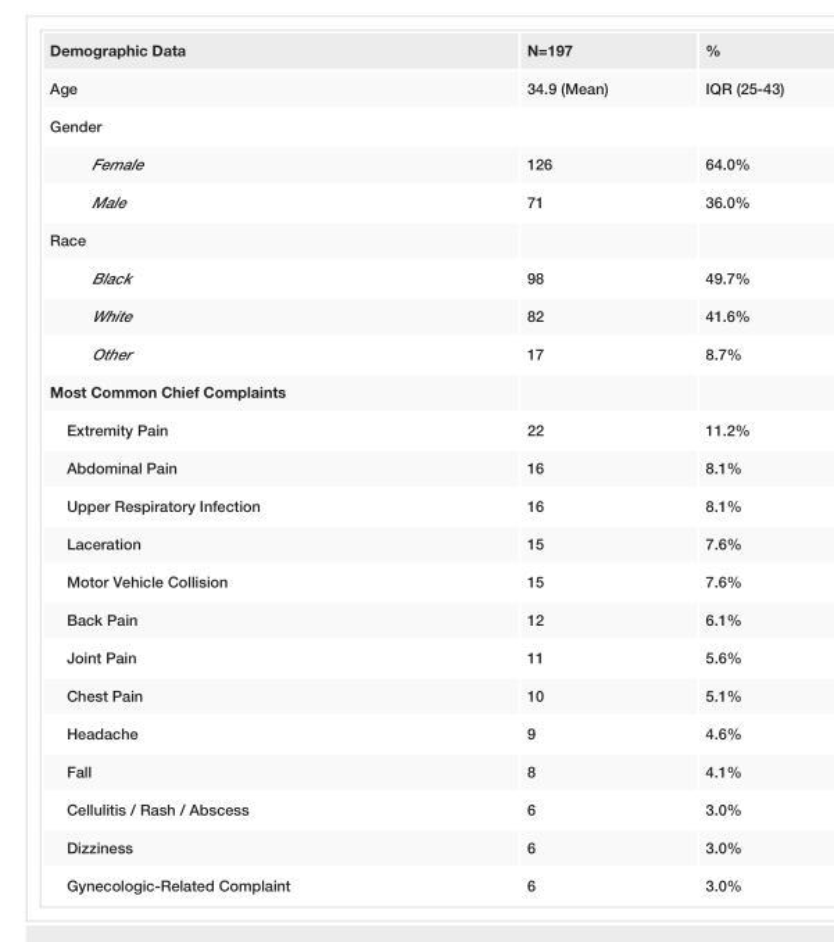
<table><tbody><tr><td>Demographic Data</td><td>N=197</td><td>%</td></tr><tr><td>Age</td><td>34.9 (Mean)</td><td>IQR (25-43)</td></tr><tr><td colspan="3">Gender</td></tr><tr><td>Female</td><td>126</td><td>64.0%</td></tr><tr><td>Male</td><td>71</td><td>36.0%</td></tr><tr><td colspan="3">Race</td></tr><tr><td>Black</td><td>98</td><td>49.7%</td></tr><tr><td>White</td><td>82</td><td>41.6%</td></tr><tr><td>Other</td><td>17</td><td>8.7%</td></tr><tr><td colspan="3">Most Common Chief Complaints</td></tr><tr><td>Extremity Pain</td><td>22</td><td>11.2%</td></tr><tr><td>Abdominal Pain</td><td>16</td><td>8.1%</td></tr><tr><td>Upper Respiratory Infection</td><td>16</td><td>8.1%</td></tr><tr><td>Laceration</td><td>15</td><td>7.6%</td></tr><tr><td>Motor Vehicle Collision</td><td>15</td><td>7.6%</td></tr><tr><td>Back Pain</td><td>12</td><td>6.1%</td></tr><tr><td>Joint Pain</td><td>11</td><td>5.6%</td></tr><tr><td>Chest Pain</td><td>10</td><td>5.1%</td></tr><tr><td>Headache</td><td>9</td><td>4.6%</td></tr><tr><td>Fall</td><td>8</td><td>4.1%</td></tr><tr><td>Cellulitis / Rash / Abscess</td><td>6</td><td>3.0%</td></tr><tr><td>Dizziness</td><td>6</td><td>3.0%</td></tr><tr><td>Gynecologic-Related Complaint</td><td>6</td><td>3.0%</td></tr></tbody></table>